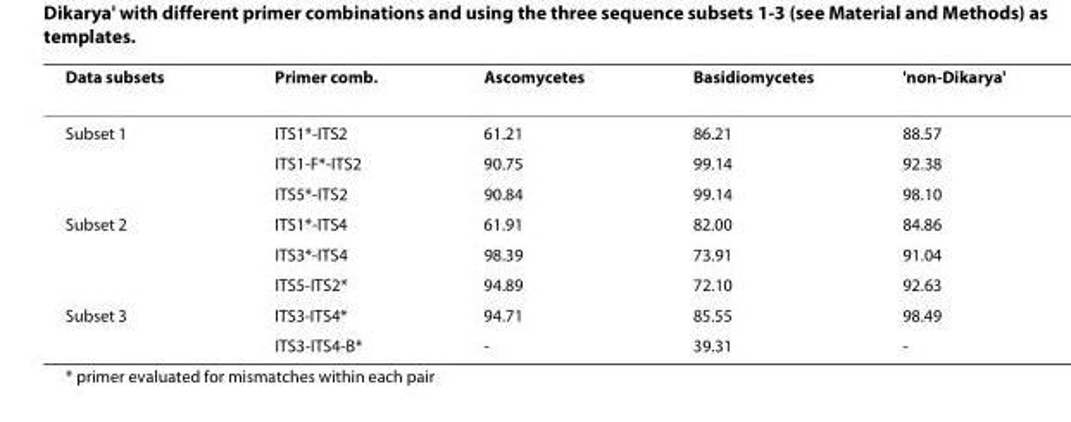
<table><thead><tr><td>Data subsets</td><td>Primer comb.</td><td>Ascomycetes</td><td>Basidiomycetes</td><td>&#x27;non-Dikarya&#x27;</td></tr></thead><tbody><tr><td rowspan="3">Subset 1</td><td>ITS1*-ITS2</td><td>61.21</td><td>86.21</td><td>88.57</td></tr><tr><td>ITS1-F*-ITS2</td><td>90.75</td><td>99.14</td><td>92.38</td></tr><tr><td>ITS5*-ITS2</td><td>90.84</td><td>99.14</td><td>98.10</td></tr><tr><td rowspan="3">Subset 2</td><td>ITS1*-ITS4</td><td>61.91</td><td>82.00</td><td>84.86</td></tr><tr><td>ITS3*-ITS4</td><td>98.39</td><td>73.91</td><td>91.04</td></tr><tr><td>ITS5-ITS2*</td><td>94.89</td><td>72.10</td><td>92.63</td></tr><tr><td rowspan="2">Subset 3</td><td>ITS3-ITS4*</td><td>94.71</td><td>85.55</td><td>98.49</td></tr><tr><td>ITS3-ITS4-B*</td><td>-</td><td>39.31</td><td>-</td></tr></tbody></table>